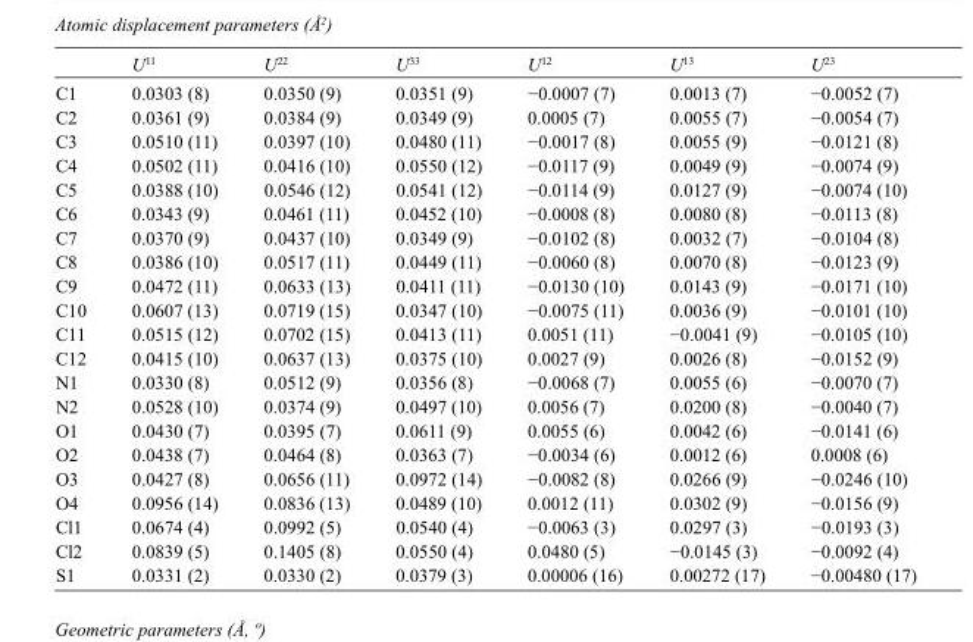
<table><thead><tr><td></td><td>U<sup>11</sup></td><td>U<sup>22</sup></td><td>U<sup>33</sup></td><td>U<sup>12</sup></td><td>U<sup>13</sup></td><td>U<sup>23</sup></td></tr></thead><tbody><tr><td>C1</td><td>0.0303 (8)</td><td>0.0350 (9)</td><td>0.0351 (9)</td><td>−0.0007 (7)</td><td>0.0013 (7)</td><td>−0.0052 (7)</td></tr><tr><td>C2</td><td>0.0361 (9)</td><td>0.0384 (9)</td><td>0.0349 (9)</td><td>0.0005 (7)</td><td>0.0055 (7)</td><td>−0.0054 (7)</td></tr><tr><td>C3</td><td>0.0510 (11)</td><td>0.0397 (10)</td><td>0.0480 (11)</td><td>−0.0017 (8)</td><td>0.0055 (9)</td><td>−0.0121 (8)</td></tr><tr><td>C4</td><td>0.0502 (11)</td><td>0.0416 (10)</td><td>0.0550 (12)</td><td>−0.0117 (9)</td><td>0.0049 (9)</td><td>−0.0074 (9)</td></tr><tr><td>C5</td><td>0.0388 (10)</td><td>0.0546 (12)</td><td>0.0541 (12)</td><td>−0.0114 (9)</td><td>0.0127 (9)</td><td>−0.0074 (10)</td></tr><tr><td>C6</td><td>0.0343 (9)</td><td>0.0461 (11)</td><td>0.0452 (10)</td><td>−0.0008 (8)</td><td>0.0080 (8)</td><td>−0.0113 (8)</td></tr><tr><td>C7</td><td>0.0370 (9)</td><td>0.0437 (10)</td><td>0.0349 (9)</td><td>−0.0102 (8)</td><td>0.0032 (7)</td><td>−0.0104 (8)</td></tr><tr><td>C8</td><td>0.0386 (10)</td><td>0.0517 (11)</td><td>0.0449 (11)</td><td>−0.0060 (8)</td><td>0.0070 (8)</td><td>−0.0123 (9)</td></tr><tr><td>C9</td><td>0.0472 (11)</td><td>0.0633 (13)</td><td>0.0411 (11)</td><td>−0.0130 (10)</td><td>0.0143 (9)</td><td>−0.0171 (10)</td></tr><tr><td>C10</td><td>0.0607 (13)</td><td>0.0719 (15)</td><td>0.0347 (10)</td><td>−0.0075 (11)</td><td>0.0036 (9)</td><td>−0.0101 (10)</td></tr><tr><td>C11</td><td>0.0515 (12)</td><td>0.0702 (15)</td><td>0.0413 (11)</td><td>0.0051 (11)</td><td>−0.0041 (9)</td><td>−0.0105 (10)</td></tr><tr><td>C12</td><td>0.0415 (10)</td><td>0.0637 (13)</td><td>0.0375 (10)</td><td>0.0027 (9)</td><td>0.0026 (8)</td><td>−0.0152 (9)</td></tr><tr><td>N1</td><td>0.0330 (8)</td><td>0.0512 (9)</td><td>0.0356 (8)</td><td>−0.0068 (7)</td><td>0.0055 (6)</td><td>−0.0070 (7)</td></tr><tr><td>N2</td><td>0.0528 (10)</td><td>0.0374 (9)</td><td>0.0497 (10)</td><td>0.0056 (7)</td><td>0.0200 (8)</td><td>−0.0040 (7)</td></tr><tr><td>O1</td><td>0.0430 (7)</td><td>0.0395 (7)</td><td>0.0611 (9)</td><td>0.0055 (6)</td><td>0.0042 (6)</td><td>−0.0141 (6)</td></tr><tr><td>O2</td><td>0.0438 (7)</td><td>0.0464 (8)</td><td>0.0363 (7)</td><td>−0.0034 (6)</td><td>0.0012 (6)</td><td>0.0008 (6)</td></tr><tr><td>O3</td><td>0.0427 (8)</td><td>0.0656 (11)</td><td>0.0972 (14)</td><td>−0.0082 (8)</td><td>0.0266 (9)</td><td>−0.0246 (10)</td></tr><tr><td>O4</td><td>0.0956 (14)</td><td>0.0836 (13)</td><td>0.0489 (10)</td><td>0.0012 (11)</td><td>0.0302 (9)</td><td>−0.0156 (9)</td></tr><tr><td>Cl1</td><td>0.0674 (4)</td><td>0.0992 (5)</td><td>0.0540 (4)</td><td>−0.0063 (3)</td><td>0.0297 (3)</td><td>−0.0193 (3)</td></tr><tr><td>Cl2</td><td>0.0839 (5)</td><td>0.1405 (8)</td><td>0.0550 (4)</td><td>0.0480 (5)</td><td>−0.0145 (3)</td><td>−0.0092 (4)</td></tr><tr><td>S1</td><td>0.0331 (2)</td><td>0.0330 (2)</td><td>0.0379 (3)</td><td>0.00006 (16)</td><td>0.00272 (17)</td><td>−0.00480 (17)</td></tr></tbody></table>